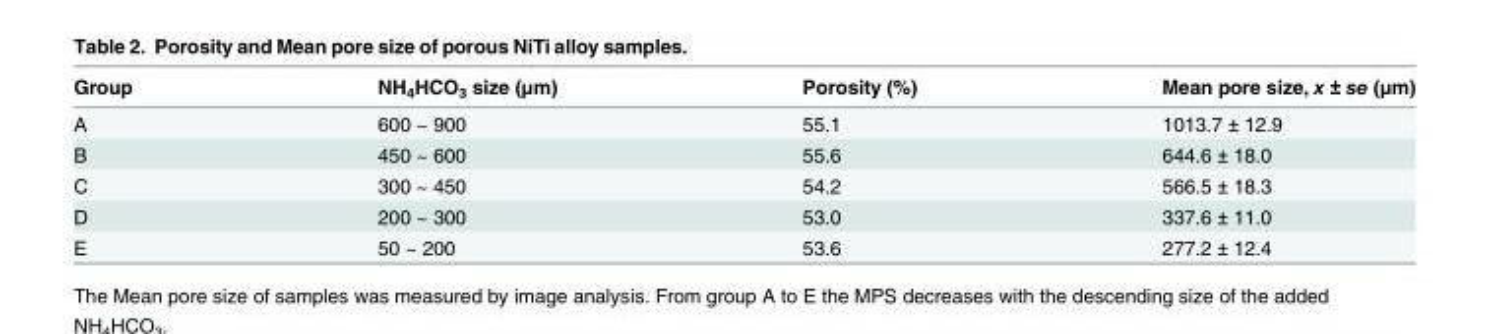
<table><thead><tr><td>Group</td><td>NH<sub>4</sub>HCO<sub>3</sub> size (μm)</td><td>Porosity (%)</td><td>Mean pore size, x ± se (μm)</td></tr></thead><tbody><tr><td>A</td><td>600 ~ 900</td><td>55.1</td><td>1013.7 ± 12.9</td></tr><tr><td>B</td><td>450 ~ 600</td><td>55.6</td><td>644.6 ± 18.0</td></tr><tr><td>C</td><td>300 ~ 450</td><td>54.2</td><td>566.5 ± 18.3</td></tr><tr><td>D</td><td>200 ~ 300</td><td>53.0</td><td>337.6 ± 11.0</td></tr><tr><td>E</td><td>50 ~ 200</td><td>53.6</td><td>277.2 ± 12.4</td></tr></tbody></table>